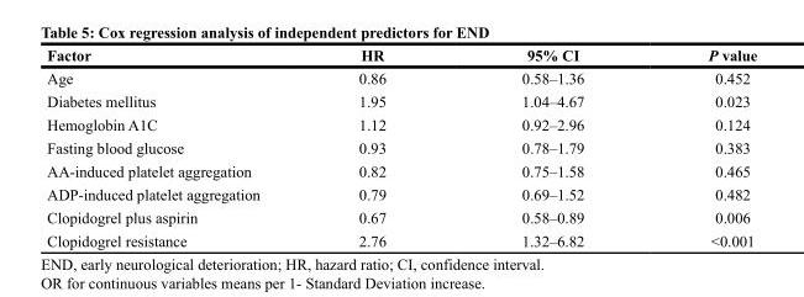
<table><thead><tr><td>Factor</td><td>HR</td><td>95% CI</td><td>P value</td></tr></thead><tbody><tr><td>Age</td><td>0.86</td><td>0.58–1.36</td><td>0.452</td></tr><tr><td>Diabetes mellitus</td><td>1.95</td><td>1.04–4.67</td><td>0.023</td></tr><tr><td>Hemoglobin A1C</td><td>1.12</td><td>0.92–2.96</td><td>0.124</td></tr><tr><td>Fasting blood glucose</td><td>0.93</td><td>0.78–1.79</td><td>0.383</td></tr><tr><td>AA-induced platelet aggregation</td><td>0.82</td><td>0.75–1.58</td><td>0.465</td></tr><tr><td>ADP-induced platelet aggregation</td><td>0.79</td><td>0.69–1.52</td><td>0.482</td></tr><tr><td>Clopidogrel plus aspirin</td><td>0.67</td><td>0.58–0.89</td><td>0.006</td></tr><tr><td>Clopidogrel resistance</td><td>2.76</td><td>1.32–6.82</td><td>&lt;0.001</td></tr></tbody></table>